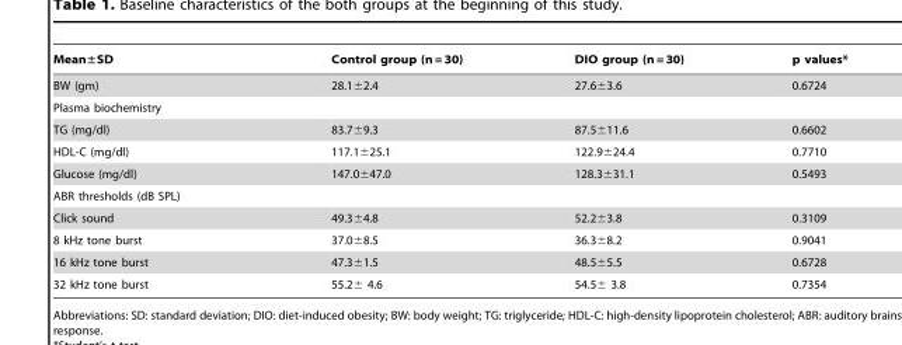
<table><thead><tr><td>Mean±SD</td><td>Control group (n = 30)</td><td>DIO group (n = 30)</td><td>p values*</td></tr></thead><tbody><tr><td>BW (gm)</td><td>28.1±2.4</td><td>27.6±3.6</td><td>0.6724</td></tr><tr><td colspan="4">Plasma biochemistry</td></tr><tr><td>TG (mg/dl)</td><td>83.7±9.3</td><td>87.5±11.6</td><td>0.6602</td></tr><tr><td>HDL-C (mg/dl)</td><td>117.1±25.1</td><td>122.9±24.4</td><td>0.7710</td></tr><tr><td>Glucose (mg/dl)</td><td>147.0±47.0</td><td>128.3±31.1</td><td>0.5493</td></tr><tr><td colspan="4">ABR thresholds (dB SPL)</td></tr><tr><td>Click sound</td><td>49.3±4.8</td><td>52.2±3.8</td><td>0.3109</td></tr><tr><td>8 kHz tone burst</td><td>37.0±8.5</td><td>36.3±8.2</td><td>0.9041</td></tr><tr><td>16 kHz tone burst</td><td>47.3±1.5</td><td>48.5±5.5</td><td>0.6728</td></tr><tr><td>32 kHz tone burst</td><td>55.2± 4.6</td><td>54.5± 3.8</td><td>0.7354</td></tr></tbody></table>